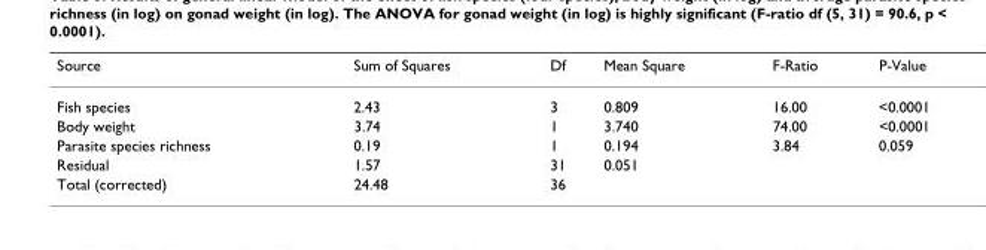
<table><thead><tr><td>Source</td><td>Sum of Squares</td><td>Df</td><td>Mean Square</td><td>F-Ratio</td><td>P-Value</td></tr></thead><tbody><tr><td>Fish species</td><td>2.43</td><td>3</td><td>0.809</td><td>16.00</td><td>&lt;0.0001</td></tr><tr><td>Body weight</td><td>3.74</td><td>1</td><td>3.740</td><td>74.00</td><td>&lt;0.0001</td></tr><tr><td>Parasite species richness</td><td>0.19</td><td>1</td><td>0.194</td><td>3.84</td><td>0.059</td></tr><tr><td>Residual</td><td>1.57</td><td>31</td><td>0.051</td><td></td><td></td></tr><tr><td>Total (corrected)</td><td>24.48</td><td>36</td><td></td><td></td><td></td></tr></tbody></table>